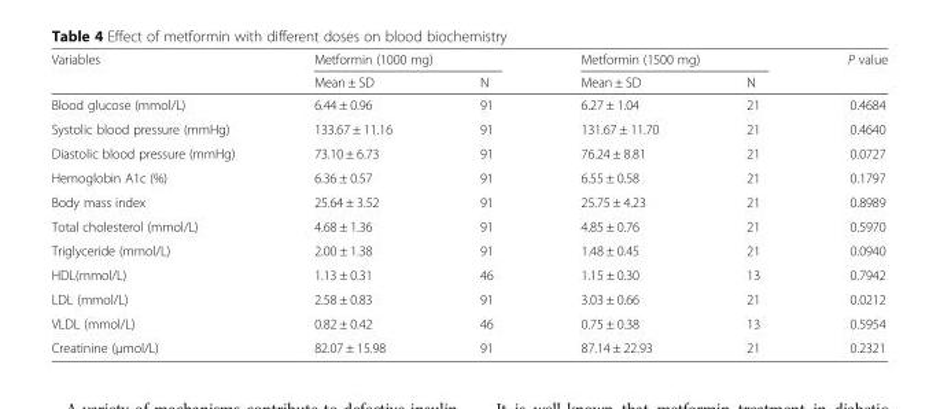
<table><thead><tr><td rowspan="2">Variables</td><td colspan="2">Metformin (1000 mg)</td><td colspan="2">Metformin (1500 mg)</td><td rowspan="2">P value</td></tr><tr><td>Mean ± SD</td><td>N</td><td>Mean ± SD</td><td>N</td></tr></thead><tbody><tr><td>Blood glucose (mmol/L)</td><td>6.44 ± 0.96</td><td>91</td><td>6.27 ± 1.04</td><td>21</td><td>0.4684</td></tr><tr><td>Systolic blood pressure (mmHg)</td><td>133.67 ± 11.16</td><td>91</td><td>131.67 ± 11.70</td><td>21</td><td>0.4640</td></tr><tr><td>Diastolic blood pressure (mmHg)</td><td>73.10 ± 6.73</td><td>91</td><td>76.24 ± 8.81</td><td>21</td><td>0.0727</td></tr><tr><td>Hemoglobin A1c (%)</td><td>6.36 ± 0.57</td><td>91</td><td>6.55 ± 0.58</td><td>21</td><td>0.1797</td></tr><tr><td>Body mass index</td><td>25.64 ± 3.52</td><td>91</td><td>25.75 ± 4.23</td><td>21</td><td>0.8989</td></tr><tr><td>Total cholesterol (mmol/L)</td><td>4.68 ± 1.36</td><td>91</td><td>4.85 ± 0.76</td><td>21</td><td>0.5970</td></tr><tr><td>Triglyceride (mmol/L)</td><td>2.00 ± 1.38</td><td>91</td><td>1.48 ± 0.45</td><td>21</td><td>0.0940</td></tr><tr><td>HDL(mmol/L)</td><td>1.13 ± 0.31</td><td>46</td><td>1.15 ± 0.30</td><td>13</td><td>0.7942</td></tr><tr><td>LDL (mmol/L)</td><td>2.58 ± 0.83</td><td>91</td><td>3.03 ± 0.66</td><td>21</td><td>0.0212</td></tr><tr><td>VLDL (mmol/L)</td><td>0.82 ± 0.42</td><td>46</td><td>0.75 ± 0.38</td><td>13</td><td>0.5954</td></tr><tr><td>Creatinine (μmol/L)</td><td>82.07 ± 15.98</td><td>91</td><td>87.14 ± 22.93</td><td>21</td><td>0.2321</td></tr></tbody></table>